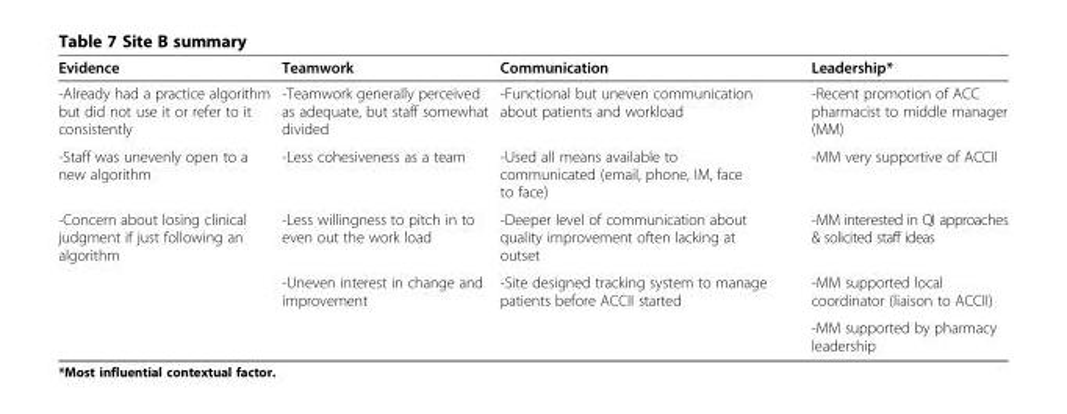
<table><thead><tr><td>Evidence</td><td>Teamwork</td><td>Communication</td><td>Leadership*</td></tr></thead><tbody><tr><td>-Already had a practice algorithm but did not use it or refer to it consistently</td><td>-Teamwork generally perceived as adequate, but staff somewhat divided</td><td>-Functional but uneven communication about patients and workload</td><td>-Recent promotion of ACC pharmacist to middle manager (MM)</td></tr><tr><td>-Staff was unevenly open to a new algorithm</td><td>-Less cohesiveness as a team</td><td>-Used all means available to communicated (email, phone, IM, face to face)</td><td>-MM very supportive of ACCII</td></tr><tr><td rowspan="3">-Concern about losing clinical judgment if just following an algorithm</td><td>-Less willingness to pitch in to even out the work load</td><td>-Deeper level of communication about quality improvement often lacking at outset</td><td>-MM interested in QI approaches &amp; solicited staff ideas</td></tr><tr><td rowspan="2">-Uneven interest in change and improvement</td><td rowspan="2">-Site designed tracking system to manage patients before ACCII started</td><td>-MM supported local coordinator (liaison to ACCII)</td></tr><tr><td>-MM supported by pharmacy leadership</td></tr></tbody></table>